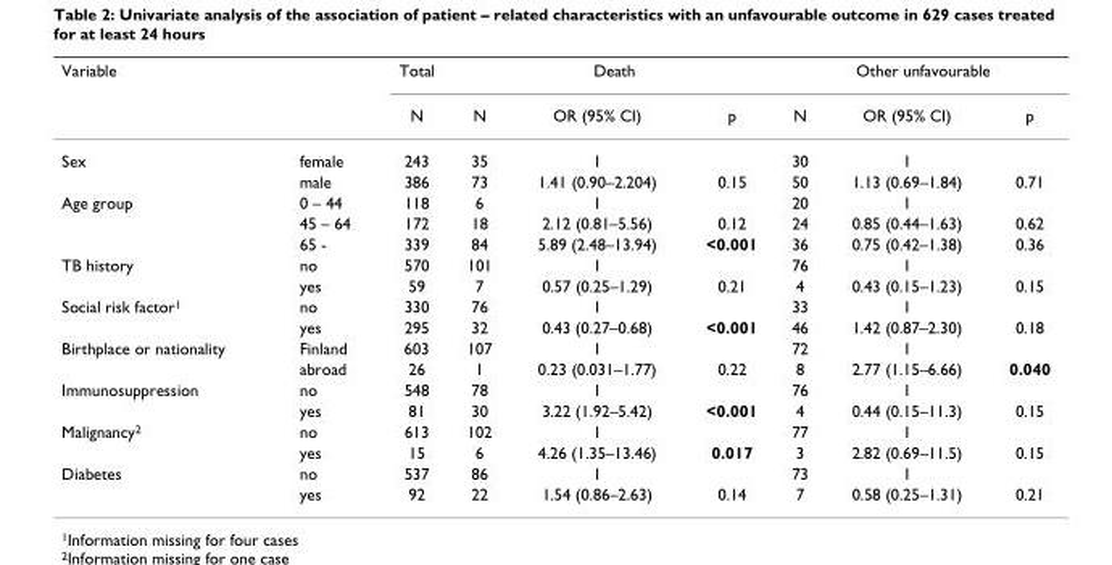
<table><thead><tr><td colspan="2">Variable</td><td rowspan="2">Total N</td><td colspan="3">Death</td><td colspan="3">Other unfavourable</td></tr><tr><td></td><td></td><td>N</td><td>OR (95% CI)</td><td>p</td><td>N</td><td>OR (95% CI)</td><td>p</td></tr></thead><tbody><tr><td rowspan="2">Sex</td><td>female</td><td>243</td><td>35</td><td>1</td><td></td><td>30</td><td>1</td><td></td></tr><tr><td>male</td><td>386</td><td>73</td><td>1.41 (0.90–2.204)</td><td>0.15</td><td>50</td><td>1.13 (0.69–1.84)</td><td>0.71</td></tr><tr><td rowspan="3">Age group</td><td>0 – 44</td><td>118</td><td>6</td><td>1</td><td></td><td>20</td><td>1</td><td></td></tr><tr><td>45 – 64</td><td>172</td><td>18</td><td>2.12 (0.81–5.56)</td><td>0.12</td><td>24</td><td>0.85 (0.44–1.63)</td><td>0.62</td></tr><tr><td>65 -</td><td>339</td><td>84</td><td>5.89 (2.48–13.94)</td><td>&lt;0.001</td><td>36</td><td>0.75 (0.42–1.38)</td><td>0.36</td></tr><tr><td rowspan="2">TB history</td><td>no</td><td>570</td><td>101</td><td>1</td><td></td><td>76</td><td>1</td><td></td></tr><tr><td>yes</td><td>59</td><td>7</td><td>0.57 (0.25–1.29)</td><td>0.21</td><td>4</td><td>0.43 (0.15–1.23)</td><td>0.15</td></tr><tr><td rowspan="2">Social risk factor<sup>1</sup></td><td>no</td><td>330</td><td>76</td><td>1</td><td></td><td>33</td><td>1</td><td></td></tr><tr><td>yes</td><td>295</td><td>32</td><td>0.43 (0.27–0.68)</td><td>&lt;0.001</td><td>46</td><td>1.42 (0.87–2.30)</td><td>0.18</td></tr><tr><td rowspan="2">Birthplace or nationality</td><td>Finland</td><td>603</td><td>107</td><td>1</td><td></td><td>72</td><td>1</td><td></td></tr><tr><td>abroad</td><td>26</td><td>1</td><td>0.23 (0.031–1.77)</td><td>0.22</td><td>8</td><td>2.77 (1.15–6.66)</td><td>0.040</td></tr><tr><td rowspan="2">Immunosuppression</td><td>no</td><td>548</td><td>78</td><td>1</td><td></td><td>76</td><td>1</td><td></td></tr><tr><td>yes</td><td>81</td><td>30</td><td>3.22 (1.92–5.42)</td><td>&lt;0.001</td><td>4</td><td>0.44 (0.15–11.3)</td><td>0.15</td></tr><tr><td rowspan="2">Malignancy<sup>2</sup></td><td>no</td><td>613</td><td>102</td><td>1</td><td></td><td>77</td><td>1</td><td></td></tr><tr><td>yes</td><td>15</td><td>6</td><td>4.26 (1.35–13.46)</td><td>0.017</td><td>3</td><td>2.82 (0.69–11.5)</td><td>0.15</td></tr><tr><td rowspan="2">Diabetes</td><td>no</td><td>537</td><td>86</td><td>1</td><td></td><td>73</td><td>1</td><td></td></tr><tr><td>yes</td><td>92</td><td>22</td><td>1.54 (0.86–2.63)</td><td>0.14</td><td>7</td><td>0.58 (0.25–1.31)</td><td>0.21</td></tr></tbody></table>